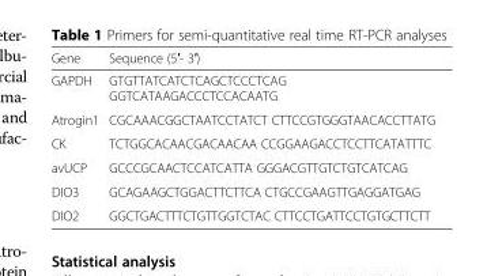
<table><thead><tr><td>Gene</td><td>Sequence (5′- 3′)</td></tr></thead><tbody><tr><td>GAPDH</td><td>GTGTTATCATCTCAGCTCCCTCAG GGTCATAAGACCCTCCACAATG</td></tr><tr><td>Atrogin1</td><td>CGCAAACGGCTAATCCTATCT CTTCCGTGGGTAACACCTTATG</td></tr><tr><td>CK</td><td>TCTGGCACAACGACAACAA CCGGAAGACCTCCTTCATATTTC</td></tr><tr><td>avUCP</td><td>GCCCGCAACTCCATCATTA GGGACGTTGTCTGTCATCAG</td></tr><tr><td>DIO3</td><td>GCAGAAGCTGGACTTCTTCA CTGCCGAAGTTGAGGATGAG</td></tr><tr><td>DIO2</td><td>GGCTGACTTTCTGTTGGTCTAC CTTCCTGATTCCTGTGCTTCTT</td></tr></tbody></table>